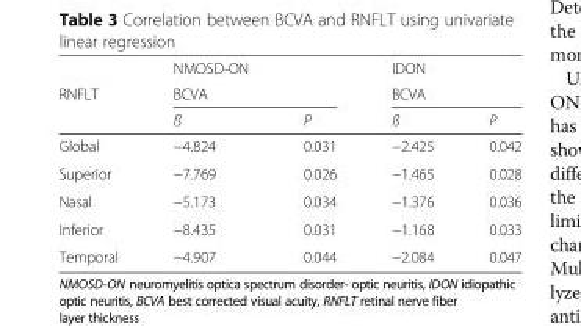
<table><thead><tr><td rowspan="3">RNFLT</td><td>NMOSD-ON</td><td></td><td>IDON</td><td></td></tr><tr><td colspan="2">BCVA</td><td colspan="2">BCVA</td></tr><tr><td>ß</td><td>P</td><td>ß</td><td>P</td></tr></thead><tbody><tr><td>Global</td><td>−4.824</td><td>0.031</td><td>−2.425</td><td>0.042</td></tr><tr><td>Superior</td><td>−7.769</td><td>0.026</td><td>−1.465</td><td>0.028</td></tr><tr><td>Nasal</td><td>−5.173</td><td>0.034</td><td>−1.376</td><td>0.036</td></tr><tr><td>Inferior</td><td>−8.435</td><td>0.031</td><td>−1.168</td><td>0.033</td></tr><tr><td>Temporal</td><td>−4.907</td><td>0.044</td><td>−2.084</td><td>0.047</td></tr></tbody></table>